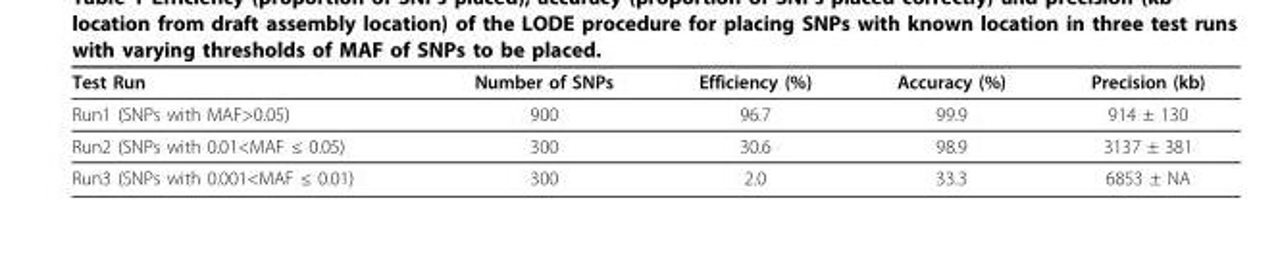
<table><thead><tr><td>Test Run</td><td>Number of SNPs</td><td>Efficiency (%)</td><td>Accuracy (%)</td><td>Precision (kb)</td></tr></thead><tbody><tr><td>Run1 (SNPs with MAF&gt;0.05)</td><td>900</td><td>96.7</td><td>99.9</td><td>914 ± 130</td></tr><tr><td>Run2 (SNPs with 0.01&lt;MAF ≤ 0.05)</td><td>300</td><td>30.6</td><td>98.9</td><td>3137 ± 381</td></tr><tr><td>Run3 (SNPs with 0.001&lt;MAF ≤ 0.01)</td><td>300</td><td>2.0</td><td>33.3</td><td>6853 ± NA</td></tr></tbody></table>